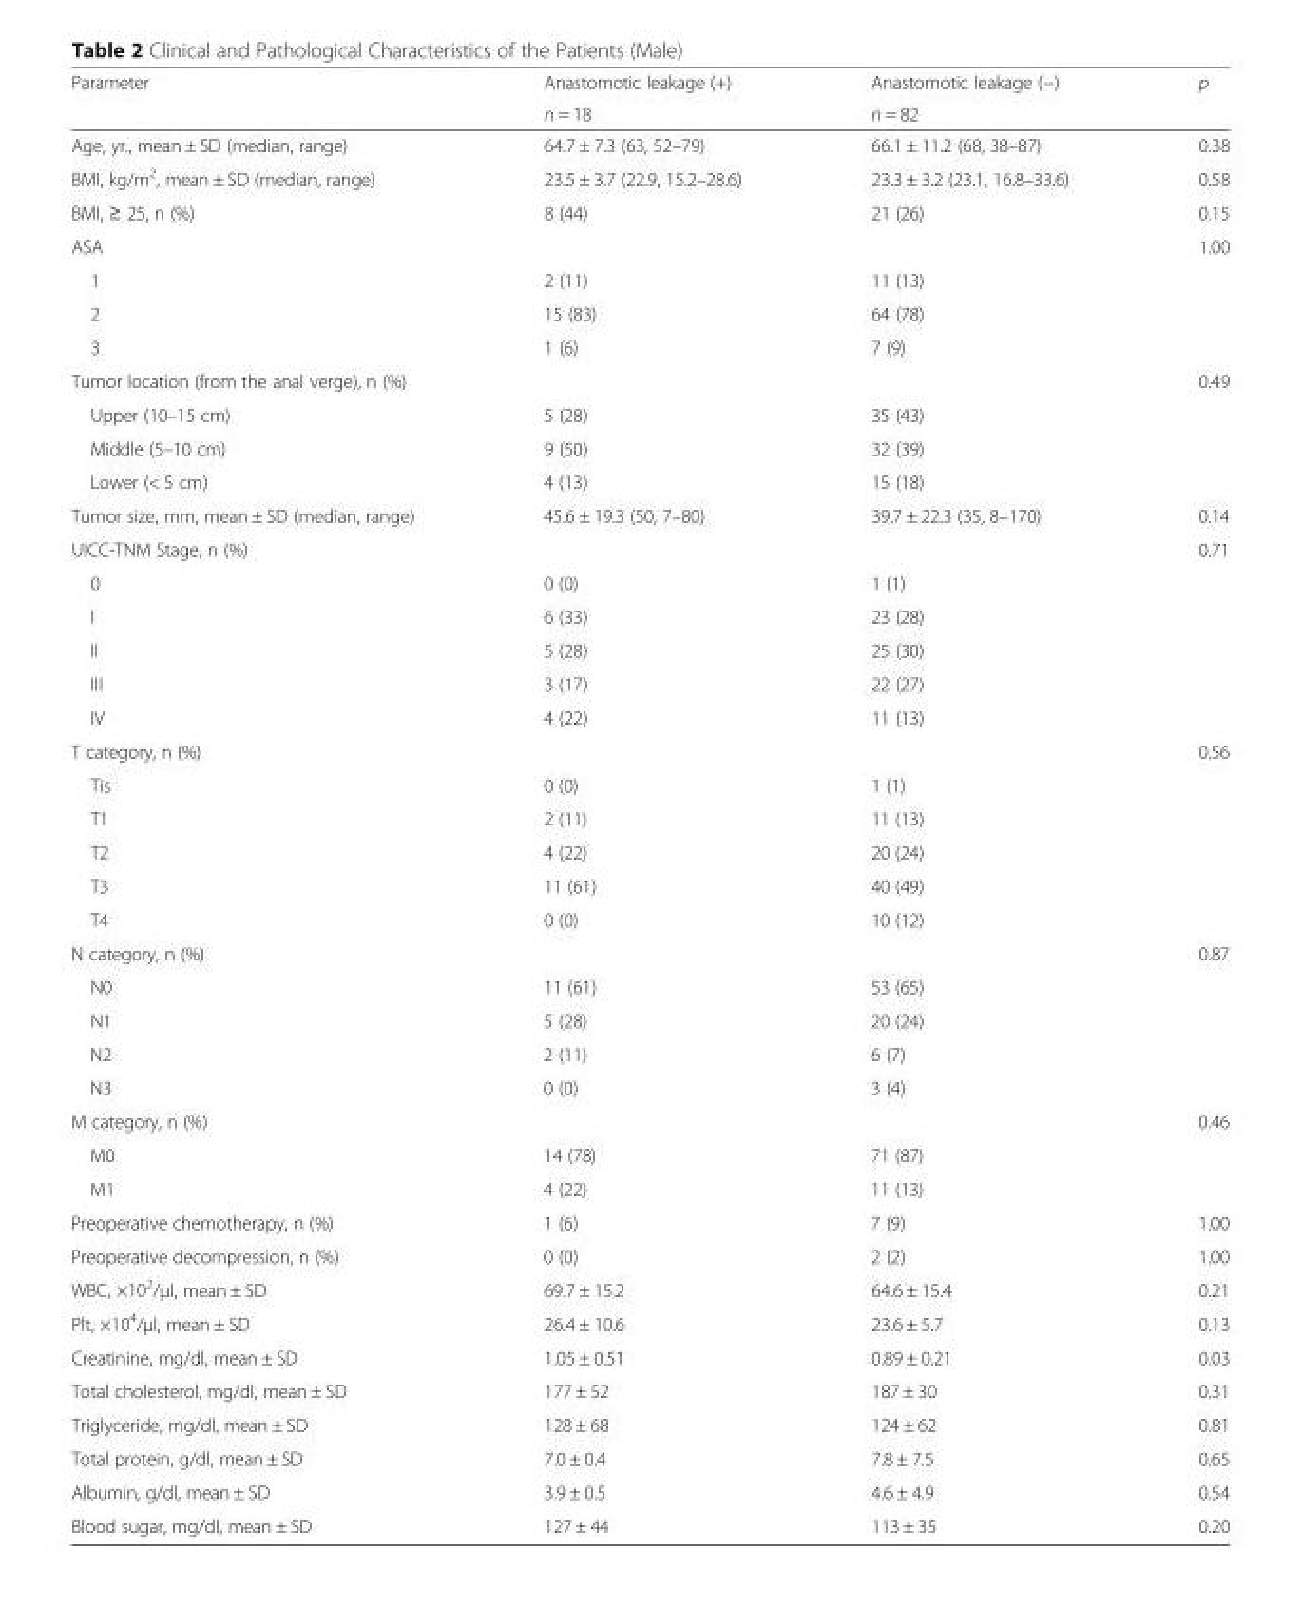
<table><thead><tr><td rowspan="2">Parameter</td><td rowspan="2">Anastomotic leakage (+) n = 18</td><td rowspan="2">Anastomotic leakage (−) n = 82</td><td rowspan="2">p</td></tr><tr></tr></thead><tbody><tr><td>Age, yr., mean ± SD (median, range)</td><td>64.7 ± 7.3 (63, 52–79)</td><td>66.1 ± 11.2 (68, 38–87)</td><td>0.38</td></tr><tr><td>BMI, kg/m<sup>2</sup>, mean ± SD (median, range)</td><td>23.5 ± 3.7 (22.9, 15.2–28.6)</td><td>23.3 ± 3.2 (23.1, 16.8–33.6)</td><td>0.58</td></tr><tr><td>BMI, ≥ 25, n (%)</td><td>8 (44)</td><td>21 (26)</td><td>0.15</td></tr><tr><td>ASA</td><td></td><td></td><td>1.00</td></tr><tr><td>1</td><td>2 (11)</td><td>11 (13)</td><td></td></tr><tr><td>2</td><td>15 (83)</td><td>64 (78)</td><td></td></tr><tr><td>3</td><td>1 (6)</td><td>7 (9)</td><td></td></tr><tr><td>Tumor location (from the anal verge), n (%)</td><td></td><td></td><td>0.49</td></tr><tr><td>Upper (10–15 cm)</td><td>5 (28)</td><td>35 (43)</td><td></td></tr><tr><td>Middle (5–10 cm)</td><td>9 (50)</td><td>32 (39)</td><td></td></tr><tr><td>Lower (&lt; 5 cm)</td><td>4 (13)</td><td>15 (18)</td><td></td></tr><tr><td>Tumor size, mm, mean ± SD (median, range)</td><td>45.6 ± 19.3 (50, 7–80)</td><td>39.7 ± 22.3 (35, 8–170)</td><td>0.14</td></tr><tr><td>UICC-TNM Stage, n (%)</td><td></td><td></td><td>0.71</td></tr><tr><td>0</td><td>0 (0)</td><td>1 (1)</td><td></td></tr><tr><td>I</td><td>6 (33)</td><td>23 (28)</td><td></td></tr><tr><td>II</td><td>5 (28)</td><td>25 (30)</td><td></td></tr><tr><td>III</td><td>3 (17)</td><td>22 (27)</td><td></td></tr><tr><td>IV</td><td>4 (22)</td><td>11 (13)</td><td></td></tr><tr><td>T category, n (%)</td><td></td><td></td><td>0.56</td></tr><tr><td>Tis</td><td>0 (0)</td><td>1 (1)</td><td></td></tr><tr><td>T1</td><td>2 (11)</td><td>11 (13)</td><td></td></tr><tr><td>T2</td><td>4 (22)</td><td>20 (24)</td><td></td></tr><tr><td>T3</td><td>11 (61)</td><td>40 (49)</td><td></td></tr><tr><td>T4</td><td>0 (0)</td><td>10 (12)</td><td></td></tr><tr><td>N category, n (%)</td><td></td><td></td><td>0.87</td></tr><tr><td>N0</td><td>11 (61)</td><td>53 (65)</td><td></td></tr><tr><td>N1</td><td>5 (28)</td><td>20 (24)</td><td></td></tr><tr><td>N2</td><td>2 (11)</td><td>6 (7)</td><td></td></tr><tr><td>N3</td><td>0 (0)</td><td>3 (4)</td><td></td></tr><tr><td>M category, n (%)</td><td></td><td></td><td>0.46</td></tr><tr><td>M0</td><td>14 (78)</td><td>71 (87)</td><td></td></tr><tr><td>M1</td><td>4 (22)</td><td>11 (13)</td><td></td></tr><tr><td>Preoperative chemotherapy, n (%)</td><td>1 (6)</td><td>7 (9)</td><td>1.00</td></tr><tr><td>Preoperative decompression, n (%)</td><td>0 (0)</td><td>2 (2)</td><td>1.00</td></tr><tr><td>WBC, ×10<sup>2</sup>/μl, mean ± SD</td><td>69.7 ± 15.2</td><td>64.6 ± 15.4</td><td>0.21</td></tr><tr><td>Plt, ×10<sup>4</sup>/μl, mean ± SD</td><td>26.4 ± 10.6</td><td>23.6 ± 5.7</td><td>0.13</td></tr><tr><td>Creatinine, mg/dl, mean ± SD</td><td>1.05 ± 0.51</td><td>0.89 ± 0.21</td><td>0.03</td></tr><tr><td>Total cholesterol, mg/dl, mean ± SD</td><td>177 ± 52</td><td>187 ± 30</td><td>0.31</td></tr><tr><td>Triglyceride, mg/dl, mean ± SD</td><td>128 ± 68</td><td>124 ± 62</td><td>0.81</td></tr><tr><td>Total protein, g/dl, mean ± SD</td><td>7.0 ± 0.4</td><td>7.8 ± 7.5</td><td>0.65</td></tr><tr><td>Albumin, g/dl, mean ± SD</td><td>3.9 ± 0.5</td><td>4.6 ± 4.9</td><td>0.54</td></tr><tr><td>Blood sugar, mg/dl, mean ± SD</td><td>127 ± 44</td><td>113 ± 35</td><td>0.20</td></tr></tbody></table>